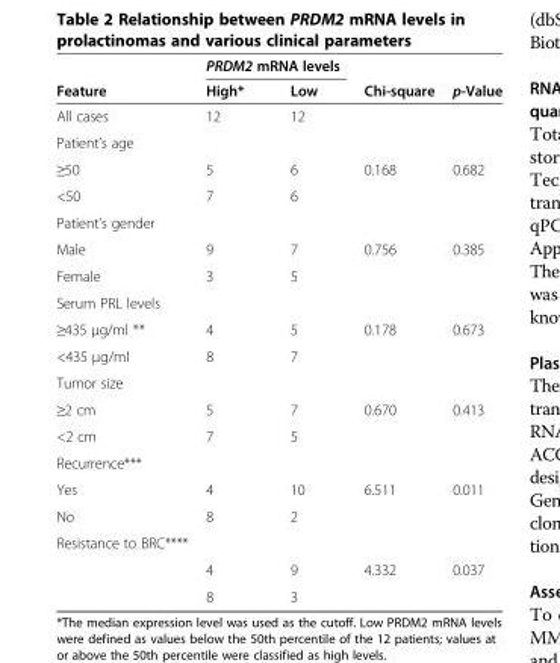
<table><thead><tr><td rowspan="2">Feature</td><td colspan="2">PRDM2 mRNA levels</td><td rowspan="2">Chi-square</td><td rowspan="2">p-Value</td></tr><tr><td>High*</td><td>Low</td></tr></thead><tbody><tr><td>All cases</td><td>12</td><td>12</td><td></td><td></td></tr><tr><td colspan="5">Patient’s age</td></tr><tr><td>≥50</td><td>5</td><td>6</td><td>0.168</td><td>0.682</td></tr><tr><td>&lt;50</td><td>7</td><td>6</td><td></td><td></td></tr><tr><td colspan="5">Patient’s gender</td></tr><tr><td>Male</td><td>9</td><td>7</td><td>0.756</td><td>0.385</td></tr><tr><td>Female</td><td>3</td><td>5</td><td></td><td></td></tr><tr><td colspan="5">Serum PRL levels</td></tr><tr><td>≥435 μg/ml **</td><td>4</td><td>5</td><td>0.178</td><td>0.673</td></tr><tr><td>&lt;435 μg/ml</td><td>8</td><td>7</td><td></td><td></td></tr><tr><td colspan="5">Tumor size</td></tr><tr><td>≥2 cm</td><td>5</td><td>7</td><td>0.670</td><td>0.413</td></tr><tr><td>&lt;2 cm</td><td>7</td><td>5</td><td></td><td></td></tr><tr><td colspan="5">Recurrence***</td></tr><tr><td>Yes</td><td>4</td><td>10</td><td>6.511</td><td>0.011</td></tr><tr><td>No</td><td>8</td><td>2</td><td></td><td></td></tr><tr><td colspan="5">Resistance to BRC****</td></tr><tr><td></td><td>4</td><td>9</td><td>4.332</td><td>0.037</td></tr><tr><td></td><td>8</td><td>3</td><td></td><td></td></tr></tbody></table>